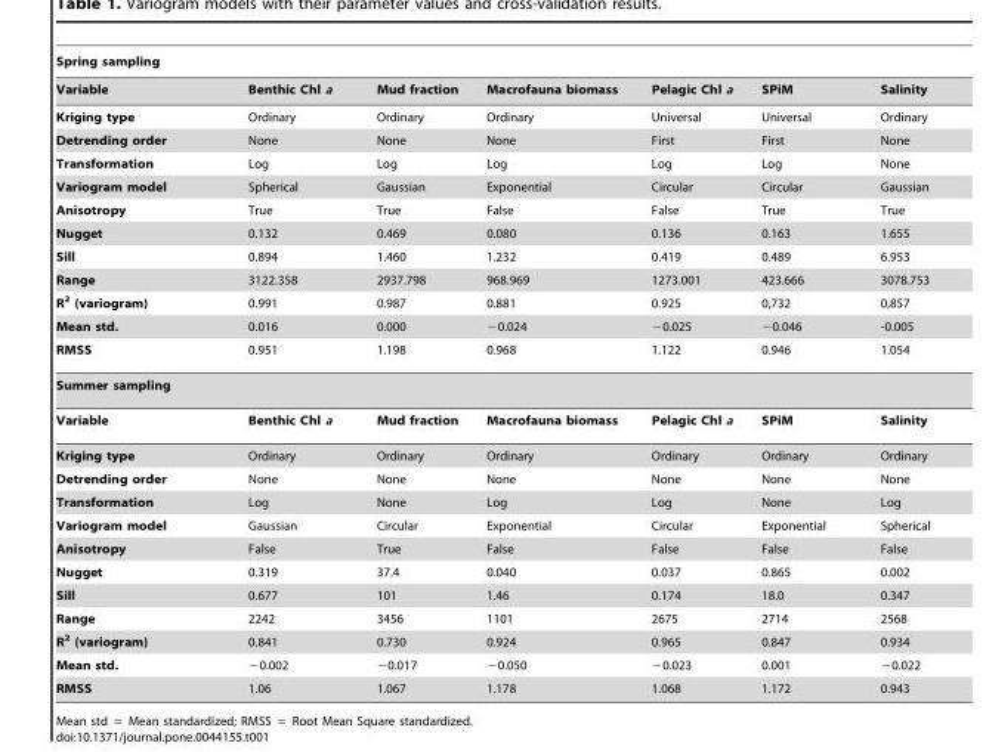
<table><thead><tr><td colspan="7">Spring sampling</td></tr><tr><td>Variable</td><td>Benthic Chl a</td><td>Mud fraction</td><td>Macrofauna biomass</td><td>Pelagic Chl a</td><td>SPiM</td><td>Salinity</td></tr></thead><tbody><tr><td>Kriging type</td><td>Ordinary</td><td>Ordinary</td><td>Ordinary</td><td>Universal</td><td>Universal</td><td>Ordinary</td></tr><tr><td>Detrending order</td><td>None</td><td>None</td><td>None</td><td>First</td><td>First</td><td>None</td></tr><tr><td>Transformation</td><td>Log</td><td>Log</td><td>Log</td><td>Log</td><td>Log</td><td>None</td></tr><tr><td>Variogram model</td><td>Spherical</td><td>Gaussian</td><td>Exponential</td><td>Circular</td><td>Circular</td><td>Gaussian</td></tr><tr><td>Anisotropy</td><td>True</td><td>True</td><td>False</td><td>False</td><td>True</td><td>True</td></tr><tr><td>Nugget</td><td>0.132</td><td>0.469</td><td>0.080</td><td>0.136</td><td>0.163</td><td>1.655</td></tr><tr><td>Sill</td><td>0.894</td><td>1.460</td><td>1.232</td><td>0.419</td><td>0.489</td><td>6.953</td></tr><tr><td>Range</td><td>3122.358</td><td>2937.798</td><td>968.969</td><td>1273.001</td><td>423.666</td><td>3078.753</td></tr><tr><td>R<sup>2</sup> (variogram)</td><td>0.991</td><td>0.987</td><td>0.881</td><td>0.925</td><td>0,732</td><td>0,857</td></tr><tr><td>Mean std.</td><td>0.016</td><td>0.000</td><td>−0.024</td><td>−0.025</td><td>−0.046</td><td>-0.005</td></tr><tr><td>RMSS</td><td>0.951</td><td>1.198</td><td>0.968</td><td>1.122</td><td>0.946</td><td>1.054</td></tr><tr><td colspan="7">Summer sampling</td></tr><tr><td>Variable</td><td>Benthic Chl a</td><td>Mud fraction</td><td>Macrofauna biomass</td><td>Pelagic Chl a</td><td>SPiM</td><td>Salinity</td></tr><tr><td>Kriging type</td><td>Ordinary</td><td>Ordinary</td><td>Ordinary</td><td>Ordinary</td><td>Ordinary</td><td>Ordinary</td></tr><tr><td>Detrending order</td><td>None</td><td>None</td><td>None</td><td>None</td><td>None</td><td>None</td></tr><tr><td>Transformation</td><td>Log</td><td>None</td><td>Log</td><td>Log</td><td>None</td><td>Log</td></tr><tr><td>Variogram model</td><td>Gaussian</td><td>Circular</td><td>Exponential</td><td>Circular</td><td>Exponential</td><td>Spherical</td></tr><tr><td>Anisotropy</td><td>False</td><td>True</td><td>False</td><td>False</td><td>False</td><td>False</td></tr><tr><td>Nugget</td><td>0.319</td><td>37.4</td><td>0.040</td><td>0.037</td><td>0.865</td><td>0.002</td></tr><tr><td>Sill</td><td>0.677</td><td>101</td><td>1.46</td><td>0.174</td><td>18.0</td><td>0.347</td></tr><tr><td>Range</td><td>2242</td><td>3456</td><td>1101</td><td>2675</td><td>2714</td><td>2568</td></tr><tr><td>R<sup>2</sup> (variogram)</td><td>0.841</td><td>0.730</td><td>0.924</td><td>0.965</td><td>0.847</td><td>0.934</td></tr><tr><td>Mean std.</td><td>−0.002</td><td>−0.017</td><td>−0.050</td><td>−0.023</td><td>0.001</td><td>−0.022</td></tr><tr><td>RMSS</td><td>1.06</td><td>1.067</td><td>1.178</td><td>1.068</td><td>1.172</td><td>0.943</td></tr></tbody></table>